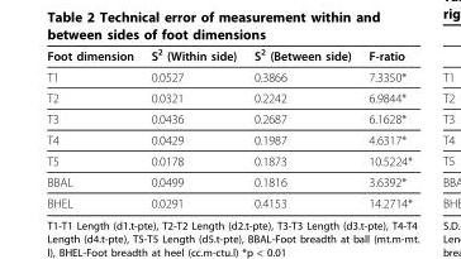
<table><thead><tr><td>Foot dimension</td><td>S<sup>2</sup> (Within side)</td><td>S<sup>2</sup> (Between side)</td><td>F-ratio</td></tr></thead><tbody><tr><td>T1</td><td>0.0527</td><td>0.3866</td><td>7.3350*</td></tr><tr><td>T2</td><td>0.0321</td><td>0.2242</td><td>6.9844*</td></tr><tr><td>T3</td><td>0.0436</td><td>0.2687</td><td>6.1628*</td></tr><tr><td>T4</td><td>0.0429</td><td>0.1987</td><td>4.6317*</td></tr><tr><td>T5</td><td>0.0178</td><td>0.1873</td><td>10.5224*</td></tr><tr><td>BBAL</td><td>0.0499</td><td>0.1816</td><td>3.6392*</td></tr><tr><td>BHEL</td><td>0.0291</td><td>0.4153</td><td>14.2714*</td></tr></tbody></table>